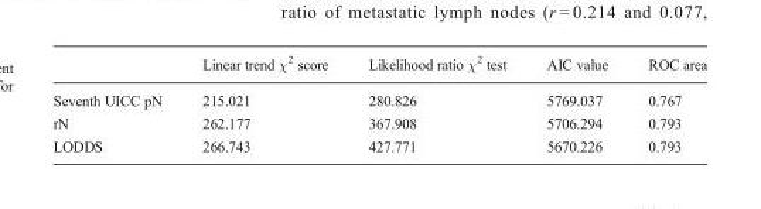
<table><thead><tr><td></td><td>Linear trend χ<sup>2</sup> score</td><td>Likelihood ratio χ<sup>2</sup> test</td><td>AIC value</td><td>ROC area</td></tr></thead><tbody><tr><td>Seventh UICC pN</td><td>215.021</td><td>280.826</td><td>5769.037</td><td>0.767</td></tr><tr><td>rN</td><td>262.177</td><td>367.908</td><td>5706.294</td><td>0.793</td></tr><tr><td>LODDS</td><td>266.743</td><td>427.771</td><td>5670.226</td><td>0.793</td></tr></tbody></table>